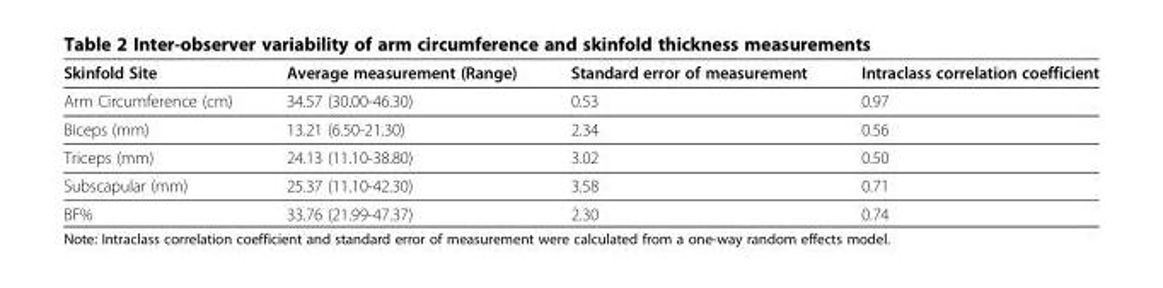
<table><thead><tr><td>Skinfold Site</td><td>Average measurement (Range)</td><td>Standard error of measurement</td><td>Intraclass correlation coefficient</td></tr></thead><tbody><tr><td>Arm Circumference (cm)</td><td>34.57 (30.00-46.30)</td><td>0.53</td><td>0.97</td></tr><tr><td>Biceps (mm)</td><td>13.21 (6.50-21.30)</td><td>2.34</td><td>0.56</td></tr><tr><td>Triceps (mm)</td><td>24.13 (11.10-38.80)</td><td>3.02</td><td>0.50</td></tr><tr><td>Subscapular (mm)</td><td>25.37 (11.10-42.30)</td><td>3.58</td><td>0.71</td></tr><tr><td>BF%</td><td>33.76 (21.99-47.37)</td><td>2.30</td><td>0.74</td></tr></tbody></table>